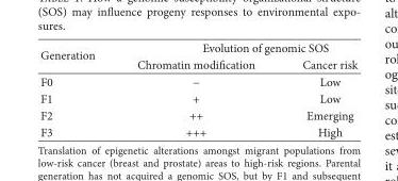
<table><thead><tr><td rowspan="2">Generation</td><td colspan="2">Evolution of genomic SOS</td></tr><tr><td>Chromatin modi�cation</td><td>Cancer risk</td></tr></thead><tbody><tr><td>F0</td><td>−</td><td>Low</td></tr><tr><td>F1</td><td>+</td><td>Low</td></tr><tr><td>F2</td><td>++</td><td>Emerging</td></tr><tr><td>F3</td><td>+++</td><td>High</td></tr></tbody></table>